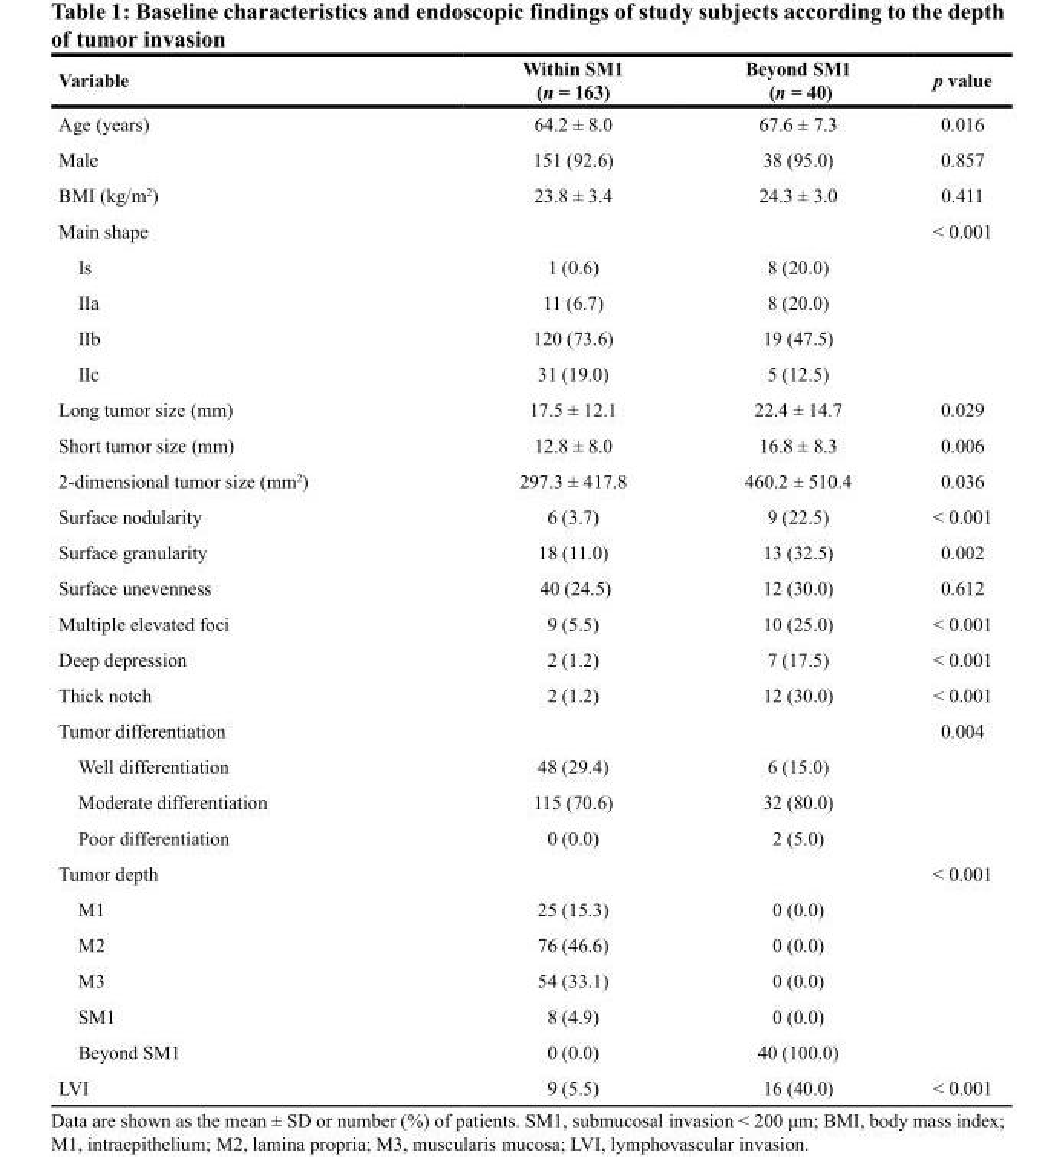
<table><thead><tr><td>Variable</td><td>Within SM1 (n = 163)</td><td>Beyond SM1 (n = 40)</td><td>p value</td></tr></thead><tbody><tr><td>Age (years)</td><td>64.2 ± 8.0</td><td>67.6 ± 7.3</td><td>0.016</td></tr><tr><td>Male</td><td>151 (92.6)</td><td>38 (95.0)</td><td>0.857</td></tr><tr><td>BMI (kg/m<sup>2</sup>)</td><td>23.8 ± 3.4</td><td>24.3 ± 3.0</td><td>0.411</td></tr><tr><td>Main shape</td><td></td><td></td><td>&lt; 0.001</td></tr><tr><td>Is</td><td>1 (0.6)</td><td>8 (20.0)</td><td></td></tr><tr><td>IIa</td><td>11 (6.7)</td><td>8 (20.0)</td><td></td></tr><tr><td>IIb</td><td>120 (73.6)</td><td>19 (47.5)</td><td></td></tr><tr><td>IIc</td><td>31 (19.0)</td><td>5 (12.5)</td><td></td></tr><tr><td>Long tumor size (mm)</td><td>17.5 ± 12.1</td><td>22.4 ± 14.7</td><td>0.029</td></tr><tr><td>Short tumor size (mm)</td><td>12.8 ± 8.0</td><td>16.8 ± 8.3</td><td>0.006</td></tr><tr><td>2-dimensional tumor size (mm<sup>2</sup>)</td><td>297.3 ± 417.8</td><td>460.2 ± 510.4</td><td>0.036</td></tr><tr><td>Surface nodularity</td><td>6 (3.7)</td><td>9 (22.5)</td><td>&lt; 0.001</td></tr><tr><td>Surface granularity</td><td>18 (11.0)</td><td>13 (32.5)</td><td>0.002</td></tr><tr><td>Surface unevenness</td><td>40 (24.5)</td><td>12 (30.0)</td><td>0.612</td></tr><tr><td>Multiple elevated foci</td><td>9 (5.5)</td><td>10 (25.0)</td><td>&lt; 0.001</td></tr><tr><td>Deep depression</td><td>2 (1.2)</td><td>7 (17.5)</td><td>&lt; 0.001</td></tr><tr><td>Thick notch</td><td>2 (1.2)</td><td>12 (30.0)</td><td>&lt; 0.001</td></tr><tr><td>Tumor differentiation</td><td></td><td></td><td>0.004</td></tr><tr><td>Well differentiation</td><td>48 (29.4)</td><td>6 (15.0)</td><td></td></tr><tr><td>Moderate differentiation</td><td>115 (70.6)</td><td>32 (80.0)</td><td></td></tr><tr><td>Poor differentiation</td><td>0 (0.0)</td><td>2 (5.0)</td><td></td></tr><tr><td>Tumor depth</td><td></td><td></td><td>&lt; 0.001</td></tr><tr><td>M1</td><td>25 (15.3)</td><td>0 (0.0)</td><td></td></tr><tr><td>M2</td><td>76 (46.6)</td><td>0 (0.0)</td><td></td></tr><tr><td>M3</td><td>54 (33.1)</td><td>0 (0.0)</td><td></td></tr><tr><td>SM1</td><td>8 (4.9)</td><td>0 (0.0)</td><td></td></tr><tr><td>Beyond SM1</td><td>0 (0.0)</td><td>40 (100.0)</td><td></td></tr><tr><td>LVI</td><td>9 (5.5)</td><td>16 (40.0)</td><td>&lt; 0.001</td></tr></tbody></table>